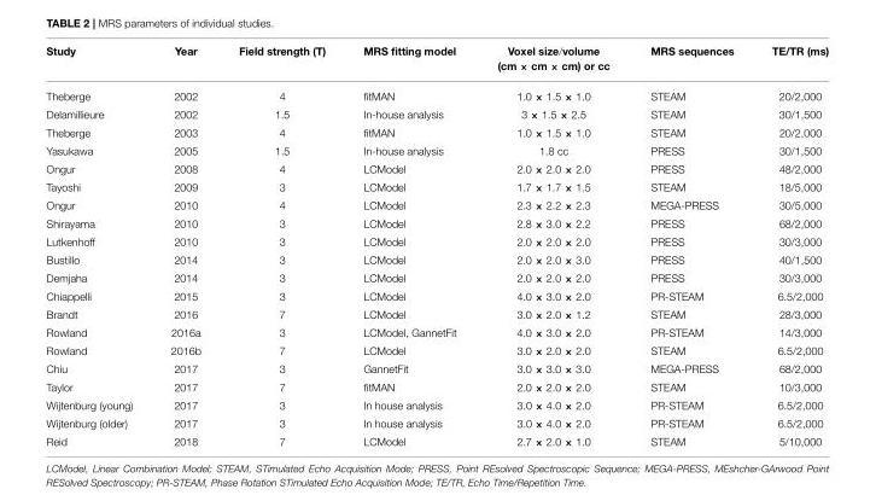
<table><thead><tr><td>Study</td><td>Year</td><td>Field strength (T)</td><td>MRS fitting model</td><td>Voxel size/volume (cm × cm × cm) or cc</td><td>MRS sequences</td><td>TE/TR (ms)</td></tr></thead><tbody><tr><td>Theberge</td><td>2002</td><td>4</td><td>fitMAN</td><td>1.0 × 1.5 × 1.0</td><td>STEAM</td><td>20/2,000</td></tr><tr><td>Delamillieure</td><td>2002</td><td>1.5</td><td>In-house analysis</td><td>3 × 1.5 × 2.5</td><td>STEAM</td><td>30/1,500</td></tr><tr><td>Theberge</td><td>2003</td><td>4</td><td>fitMAN</td><td>1.0 × 1.5 × 1.0</td><td>STEAM</td><td>20/2,000</td></tr><tr><td>Yasukawa</td><td>2005</td><td>1.5</td><td>In-house analysis</td><td>1.8 cc</td><td>PRESS</td><td>30/1,500</td></tr><tr><td>Ongur</td><td>2008</td><td>4</td><td>LCModel</td><td>2.0 × 2.0 × 2.0</td><td>PRESS</td><td>48/2,000</td></tr><tr><td>Tayoshi</td><td>2009</td><td>3</td><td>LCModel</td><td>1.7 × 1.7 × 1.5</td><td>STEAM</td><td>18/5,000</td></tr><tr><td>Ongur</td><td>2010</td><td>4</td><td>LCModel</td><td>2.3 × 2.2 × 2.3</td><td>MEGA-PRESS</td><td>30/5,000</td></tr><tr><td>Shirayama</td><td>2010</td><td>3</td><td>LCModel</td><td>2.8 × 3.0 × 2.2</td><td>PRESS</td><td>68/2,000</td></tr><tr><td>Lutkenhoff</td><td>2010</td><td>3</td><td>LCModel</td><td>2.0 × 2.0 × 2.0</td><td>PRESS</td><td>30/3,000</td></tr><tr><td>Bustillo</td><td>2014</td><td>3</td><td>LCModel</td><td>2.0 × 2.0 × 3.0</td><td>PRESS</td><td>40/1,500</td></tr><tr><td>Demjaha</td><td>2014</td><td>3</td><td>LCModel</td><td>2.0 × 2.0 × 2.0</td><td>PRESS</td><td>30/3,000</td></tr><tr><td>Chiappelli</td><td>2015</td><td>3</td><td>LCModel</td><td>4.0 × 3.0 × 2.0</td><td>PR-STEAM</td><td>6.5/2,000</td></tr><tr><td>Brandt</td><td>2016</td><td>7</td><td>LCModel</td><td>3.0 × 2.0 × 1.2</td><td>STEAM</td><td>28/3,000</td></tr><tr><td>Rowland</td><td>2016a</td><td>3</td><td>LCModel, GannetFit</td><td>4.0 × 3.0 × 2.0</td><td>PR-STEAM</td><td>14/3,000</td></tr><tr><td>Rowland</td><td>2016b</td><td>7</td><td>LCModel</td><td>3.0 × 2.0 × 2.0</td><td>STEAM</td><td>6.5/2,000</td></tr><tr><td>Chiu</td><td>2017</td><td>3</td><td>GannetFit</td><td>3.0 × 3.0 × 3.0</td><td>MEGA-PRESS</td><td>68/2,000</td></tr><tr><td>Taylor</td><td>2017</td><td>7</td><td>fitMAN</td><td>2.0 × 2.0 × 2.0</td><td>STEAM</td><td>10/3,000</td></tr><tr><td>Wijtenburg (young)</td><td>2017</td><td>3</td><td>In house analysis</td><td>3.0 × 4.0 × 2.0</td><td>PR-STEAM</td><td>6.5/2,000</td></tr><tr><td>Wijtenburg (older)</td><td>2017</td><td>3</td><td>In house analysis</td><td>3.0 × 4.0 × 2.0</td><td>PR-STEAM</td><td>6.5/2,000</td></tr><tr><td>Reid</td><td>2018</td><td>7</td><td>LCModel</td><td>2.7 × 2.0 × 1.0</td><td>STEAM</td><td>5/10,000</td></tr></tbody></table>